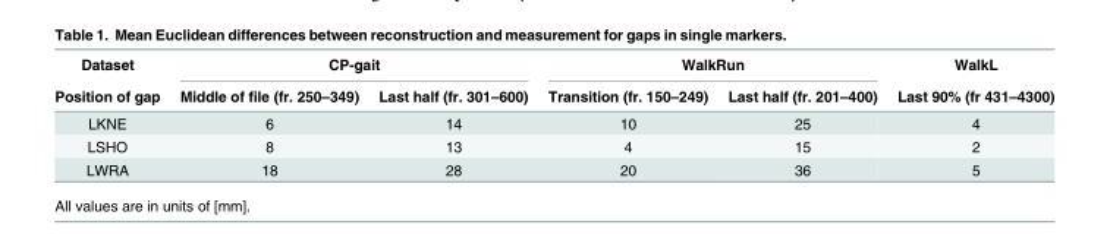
<table><thead><tr><td rowspan="2">Dataset Position of gap</td><td colspan="2">CP-gait</td><td colspan="2">WalkRun</td><td rowspan="2">WalkL Last 90% (fr 431–4300)</td></tr><tr><td>Middle of file (fr. 250–349)</td><td>Last half (fr. 301–600)</td><td>Transition (fr. 150–249)</td><td>Last half (fr. 201–400)</td></tr></thead><tbody><tr><td>LKNE</td><td>6</td><td>14</td><td>10</td><td>25</td><td>4</td></tr><tr><td>LSHO</td><td>8</td><td>13</td><td>4</td><td>15</td><td>2</td></tr><tr><td>LWRA</td><td>18</td><td>28</td><td>20</td><td>36</td><td>5</td></tr></tbody></table>